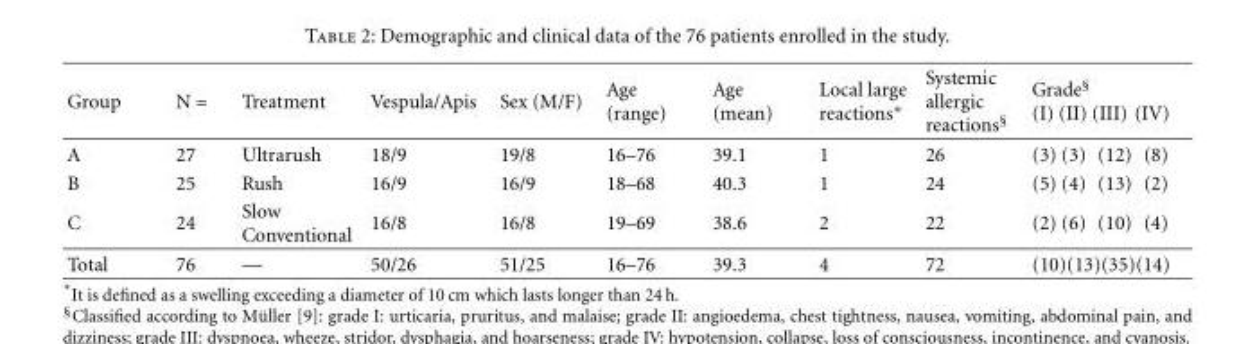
<table><thead><tr><td>Group</td><td>N =</td><td>Treatment</td><td>Vespula/Apis</td><td>Sex (M/F)</td><td>Age (range)</td><td>Age (mean)</td><td>Local large reactions∗</td><td>Systemic allergic reactions<sup>§</sup></td><td>Grade<sup>§</sup> (I) (II) (III) (IV)</td></tr></thead><tbody><tr><td>A</td><td>27</td><td>Ultrarush</td><td>18/9</td><td>19/8</td><td>16–76</td><td>39.1</td><td>1</td><td>26</td><td>(3) (3) (12) (8)</td></tr><tr><td>B</td><td>25</td><td>Rush</td><td>16/9</td><td>16/9</td><td>18–68</td><td>40.3</td><td>1</td><td>24</td><td>(5) (4) (13) (2)</td></tr><tr><td>C</td><td>24</td><td>Slow Conventional</td><td>16/8</td><td>16/8</td><td>19–69</td><td>38.6</td><td>2</td><td>22</td><td>(2) (6) (10) (4)</td></tr><tr><td>Total</td><td>76</td><td>—</td><td>50/26</td><td>51/25</td><td>16–76</td><td>39.3</td><td>4</td><td>72</td><td>(10)(13)(35)(14)</td></tr></tbody></table>